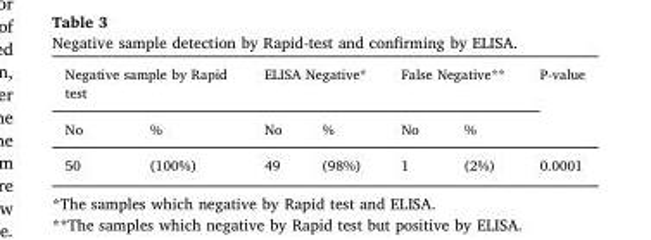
<table><thead><tr><td colspan="2">Negative sample by Rapid test</td><td colspan="2">ELISA Negative*</td><td colspan="2">False Negative**</td><td rowspan="2">P-value</td></tr><tr><td>No</td><td>%</td><td>No</td><td>%</td><td>No</td><td>%</td></tr></thead><tbody><tr><td>50</td><td>(100%)</td><td>49</td><td>(98%)</td><td>1</td><td>(2%)</td><td>0.0001</td></tr></tbody></table>